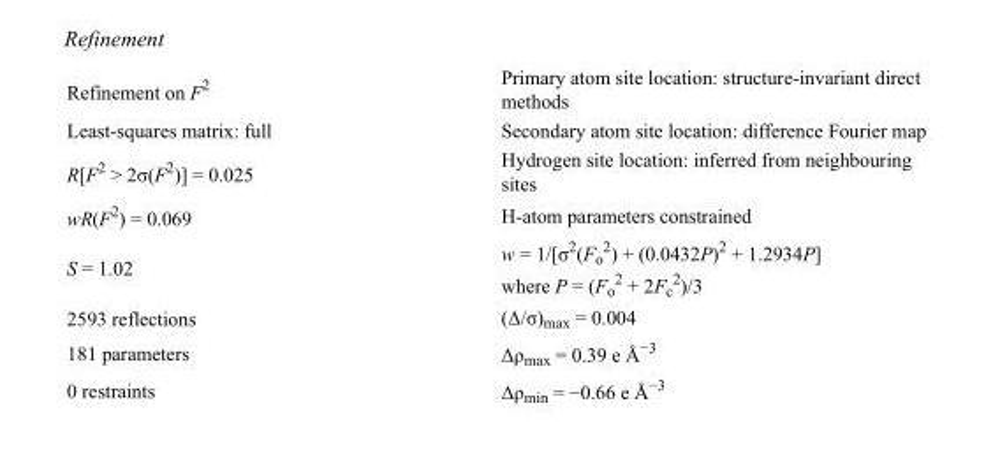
<table><tbody><tr><td>Refinement on F<sup>2</sup></td><td>Primary atom site location: structure-invariant direct methods</td></tr><tr><td>Least-squares matrix: full</td><td>Secondary atom site location: difference Fourier map</td></tr><tr><td>R[F<sup>2</sup> &gt; 2σ(F<sup>2</sup>)] = 0.025</td><td>Hydrogen site location: inferred from neighbouring sites</td></tr><tr><td>wR(F<sup>2</sup>) = 0.069</td><td>H-atom parameters constrained</td></tr><tr><td>S = 1.02</td><td>w = 1/[σ<sup>2</sup>(F<sub>o</sub> <sup>2</sup>) + (0.0432P)<sup>2</sup> + 1.2934P] where P = (F<sub>o</sub> <sup>2</sup> + 2F<sub>c</sub> <sup>2</sup>)/3</td></tr><tr><td>2593 reflections</td><td>(Δ/σ)<sub>max</sub> = 0.004</td></tr><tr><td>181 parameters</td><td>Δρ<sub>max</sub> = 0.39 e Å<sup>−3</sup></td></tr><tr><td>0 restraints</td><td>Δρ<sub>min</sub> = −0.66 e Å<sup>−3</sup></td></tr></tbody></table>